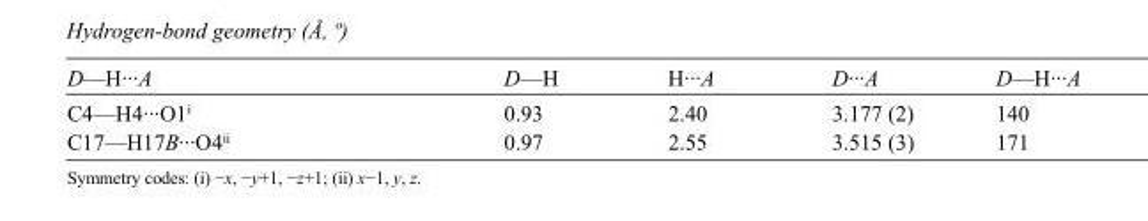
<table><tbody><tr><td>D—H···A</td><td>D—H</td><td>H···A</td><td>D···A</td><td>D—H···A</td></tr><tr><td>C4—H4···O1<sup>i</sup></td><td>0.93</td><td>2.40</td><td>3.177 (2)</td><td>140</td></tr><tr><td>C17—H17B···O4<sup>ii</sup></td><td>0.97</td><td>2.55</td><td>3.515 (3)</td><td>171</td></tr></tbody></table>